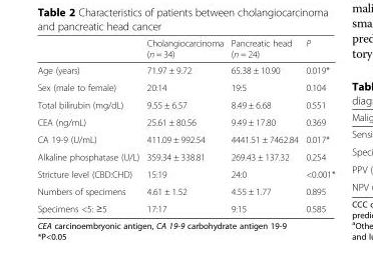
<table><thead><tr><td></td><td>Cholangiocarcinoma (n = 34)</td><td>Pancreatic head (n = 24)</td><td>P</td></tr></thead><tbody><tr><td>Age (years)</td><td>71.97 ± 9.72</td><td>65.38 ± 10.90</td><td>0.019*</td></tr><tr><td>Sex (male to female)</td><td>20:14</td><td>19:5</td><td>0.104</td></tr><tr><td>Total bilirubin (mg/dL)</td><td>9.55 ± 6.57</td><td>8.49 ± 6.68</td><td>0.551</td></tr><tr><td>CEA (ng/mL)</td><td>25.61 ± 80.56</td><td>9.49 ± 17.80</td><td>0.369</td></tr><tr><td>CA 19-9 (U/mL)</td><td>411.09 ± 992.54</td><td>4441.51 ± 7462.84</td><td>0.017*</td></tr><tr><td>Alkaline phosphatase (U/L)</td><td>359.34 ± 338.81</td><td>269.43 ± 137.32</td><td>0.254</td></tr><tr><td>Stricture level (CBD:CHD)</td><td>15:19</td><td>24:0</td><td>&lt;0.001*</td></tr><tr><td>Numbers of specimens</td><td>4.61 ± 1.52</td><td>4.55 ± 1.77</td><td>0.895</td></tr><tr><td>Specimens &lt;5: ≥5</td><td>17:17</td><td>9:15</td><td>0.585</td></tr></tbody></table>